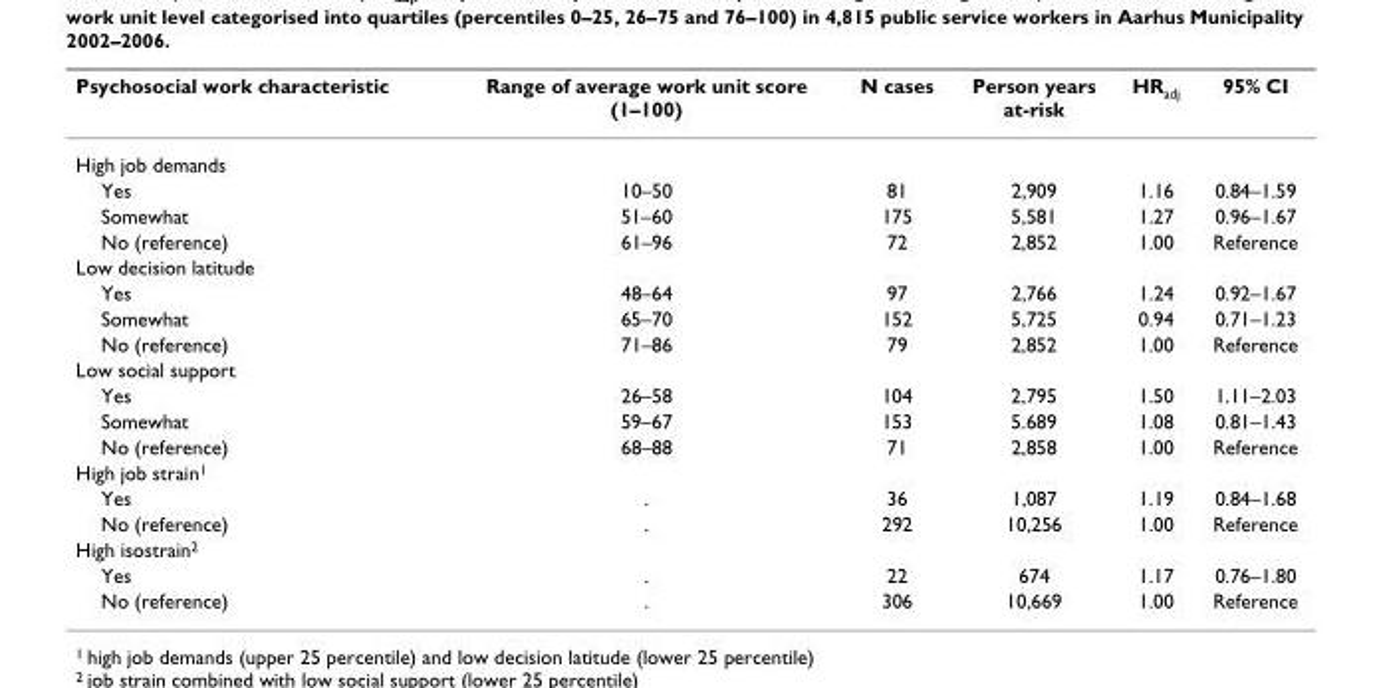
<table><thead><tr><td>Psychosocial work characteristic</td><td>Range of average work unit score (1–100)</td><td>N cases</td><td>Person years at-risk</td><td>HR<sub>adj</sub></td><td>95% CI</td></tr></thead><tbody><tr><td colspan="6">High job demands</td></tr><tr><td>Yes</td><td>10–50</td><td>81</td><td>2,909</td><td>1.16</td><td>0.84–1.59</td></tr><tr><td>Somewhat</td><td>51–60</td><td>175</td><td>5,581</td><td>1.27</td><td>0.96–1.67</td></tr><tr><td>No (reference)</td><td>61–96</td><td>72</td><td>2,852</td><td>1.00</td><td>Reference</td></tr><tr><td colspan="6">Low decision latitude</td></tr><tr><td>Yes</td><td>48–64</td><td>97</td><td>2,766</td><td>1.24</td><td>0.92–1.67</td></tr><tr><td>Somewhat</td><td>65–70</td><td>152</td><td>5,725</td><td>0.94</td><td>0.71–1.23</td></tr><tr><td>No (reference)</td><td>71–86</td><td>79</td><td>2,852</td><td>1.00</td><td>Reference</td></tr><tr><td colspan="6">Low social support</td></tr><tr><td>Yes</td><td>26–58</td><td>104</td><td>2,795</td><td>1.50</td><td>1.11–2.03</td></tr><tr><td>Somewhat</td><td>59–67</td><td>153</td><td>5.689</td><td>1.08</td><td>0.81–1.43</td></tr><tr><td>No (reference)</td><td>68–88</td><td>71</td><td>2,858</td><td>1.00</td><td>Reference</td></tr><tr><td colspan="6">High job strain<sup>1</sup></td></tr><tr><td>Yes</td><td>.</td><td>36</td><td>1,087</td><td>1.19</td><td>0.84–1.68</td></tr><tr><td>No (reference)</td><td>.</td><td>292</td><td>10,256</td><td>1.00</td><td>Reference</td></tr><tr><td colspan="6">High isostrain<sup>2</sup></td></tr><tr><td>Yes</td><td>.</td><td>22</td><td>674</td><td>1.17</td><td>0.76–1.80</td></tr><tr><td>No (reference)</td><td>.</td><td>306</td><td>10,669</td><td>1.00</td><td>Reference</td></tr></tbody></table>